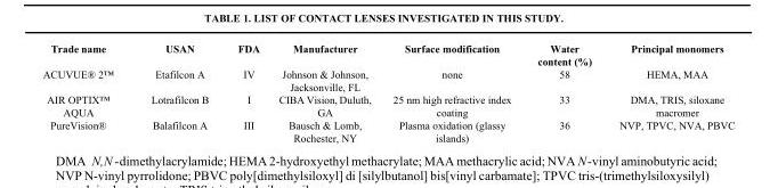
<table><thead><tr><td>Trade name</td><td>USAN</td><td>FDA</td><td>Manufacturer</td><td>Surface modification</td><td>Water content (%)</td><td>Principal monomers</td></tr></thead><tbody><tr><td>ACUVUE® 2™</td><td>Etafilcon A</td><td>IV</td><td>Johnson &amp; Johnson, Jacksonville, FL</td><td>none</td><td>58</td><td>HEMA, MAA</td></tr><tr><td>AIR OPTIX™ AQUA</td><td>Lotrafilcon B</td><td>I</td><td>CIBA Vision, Duluth, GA</td><td>25 nm high refractive index coating</td><td>33</td><td>DMA, TRIS, siloxane macromer</td></tr><tr><td>PureVision®</td><td>Balafilcon A</td><td>III</td><td>Bausch &amp; Lomb, Rochester, NY</td><td>Plasma oxidation (glassy islands)</td><td>36</td><td>NVP, TPVC, NVA, PBVC</td></tr></tbody></table>